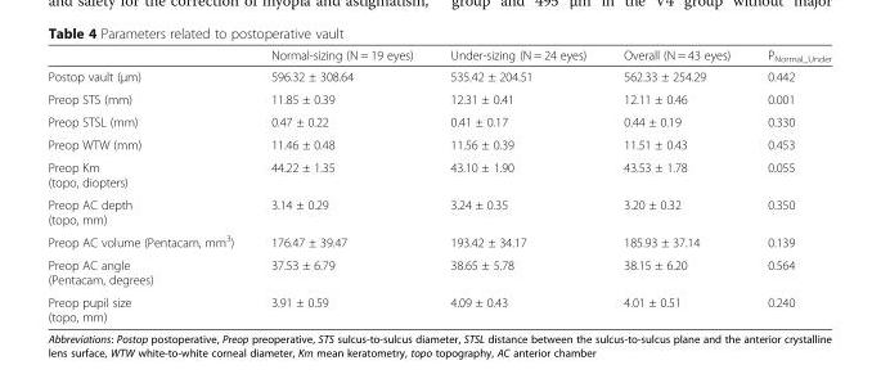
<table><thead><tr><td></td><td>Normal-sizing (N = 19 eyes)</td><td>Under-sizing (N = 24 eyes)</td><td>Overall (N = 43 eyes)</td><td>P<sub>Normal_Under</sub></td></tr></thead><tbody><tr><td>Postop vault (μm)</td><td>596.32 ± 308.64</td><td>535.42 ± 204.51</td><td>562.33 ± 254.29</td><td>0.442</td></tr><tr><td>Preop STS (mm)</td><td>11.85 ± 0.39</td><td>12.31 ± 0.41</td><td>12.11 ± 0.46</td><td>0.001</td></tr><tr><td>Preop STSL (mm)</td><td>0.47 ± 0.22</td><td>0.41 ± 0.17</td><td>0.44 ± 0.19</td><td>0.330</td></tr><tr><td>Preop WTW (mm)</td><td>11.46 ± 0.48</td><td>11.56 ± 0.39</td><td>11.51 ± 0.43</td><td>0.453</td></tr><tr><td>Preop Km (topo, diopters)</td><td>44.22 ± 1.35</td><td>43.10 ± 1.90</td><td>43.53 ± 1.78</td><td>0.055</td></tr><tr><td>Preop AC depth (topo, mm)</td><td>3.14 ± 0.29</td><td>3.24 ± 0.35</td><td>3.20 ± 0.32</td><td>0.350</td></tr><tr><td>Preop AC volume (Pentacam, mm<sup>3</sup>)</td><td>176.47 ± 39.47</td><td>193.42 ± 34.17</td><td>185.93 ± 37.14</td><td>0.139</td></tr><tr><td>Preop AC angle (Pentacam, degrees)</td><td>37.53 ± 6.79</td><td>38.65 ± 5.78</td><td>38.15 ± 6.20</td><td>0.564</td></tr><tr><td>Preop pupil size (topo, mm)</td><td>3.91 ± 0.59</td><td>4.09 ± 0.43</td><td>4.01 ± 0.51</td><td>0.240</td></tr></tbody></table>